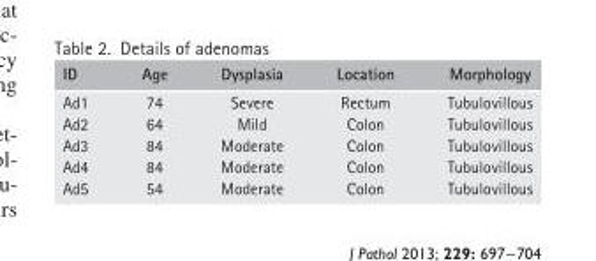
<table><thead><tr><td>ID</td><td>Age</td><td>Dysplasia</td><td>Location</td><td>Morphology</td></tr></thead><tbody><tr><td>Ad1</td><td>74</td><td>Severe</td><td>Rectum</td><td>Tubulovillous</td></tr><tr><td>Ad2</td><td>64</td><td>Mild</td><td>Colon</td><td>Tubulovillous</td></tr><tr><td>Ad3</td><td>84</td><td>Moderate</td><td>Colon</td><td>Tubulovillous</td></tr><tr><td>Ad4</td><td>84</td><td>Moderate</td><td>Colon</td><td>Tubulovillous</td></tr><tr><td>Ad5</td><td>54</td><td>Moderate</td><td>Colon</td><td>Tubulovillous</td></tr></tbody></table>